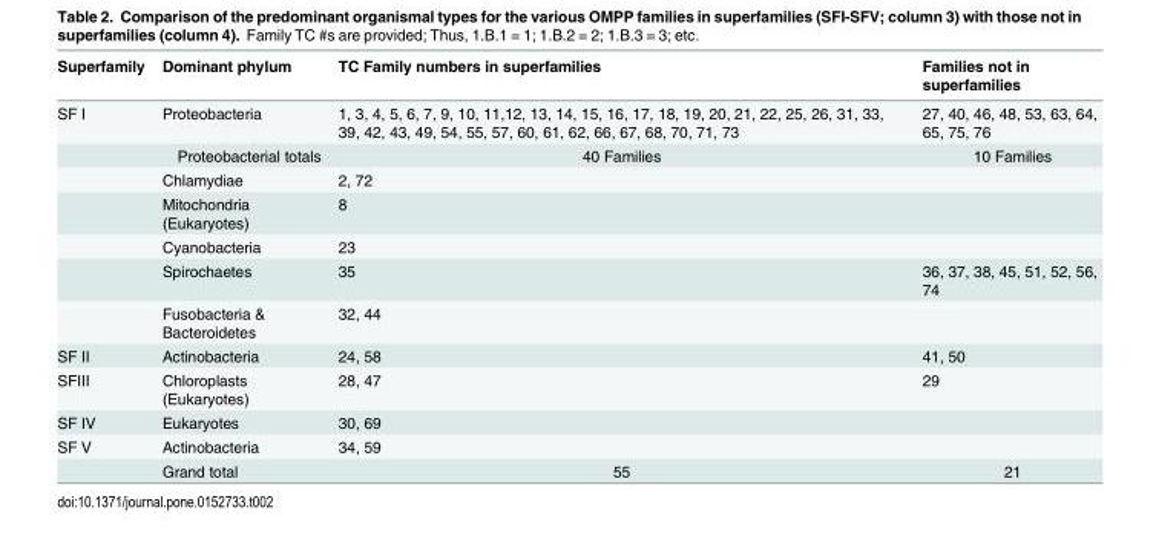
<table><thead><tr><td>Superfamily</td><td>Dominant phylum</td><td>TC Family numbers in superfamilies</td><td>Families not in superfamilies</td></tr></thead><tbody><tr><td rowspan="7">SF I</td><td>Proteobacteria</td><td>1, 3, 4, 5, 6, 7, 9, 10, 11,12, 13, 14, 15, 16, 17, 18, 19, 20, 21, 22, 25, 26, 31, 33, 39, 42, 43, 49, 54, 55, 57, 60, 61, 62, 66, 67, 68, 70, 71, 73</td><td>27, 40, 46, 48, 53, 63, 64, 65, 75, 76</td></tr><tr><td>Proteobacterial totals</td><td>40 Families</td><td>10 Families</td></tr><tr><td>Chlamydiae</td><td>2, 72</td><td></td></tr><tr><td>Mitochondria (Eukaryotes)</td><td>8</td><td></td></tr><tr><td>Cyanobacteria</td><td>23</td><td></td></tr><tr><td>Spirochaetes</td><td>35</td><td>36, 37, 38, 45, 51, 52, 56, 74</td></tr><tr><td>Fusobacteria &amp; Bacteroidetes</td><td>32, 44</td><td></td></tr><tr><td>SF II</td><td>Actinobacteria</td><td>24, 58</td><td>41, 50</td></tr><tr><td>SFIII</td><td>Chloroplasts (Eukaryotes)</td><td>28, 47</td><td>29</td></tr><tr><td>SF IV</td><td>Eukaryotes</td><td>30, 69</td><td></td></tr><tr><td rowspan="2">SF V</td><td>Actinobacteria</td><td>34, 59</td><td></td></tr><tr><td>Grand total</td><td>55</td><td>21</td></tr></tbody></table>